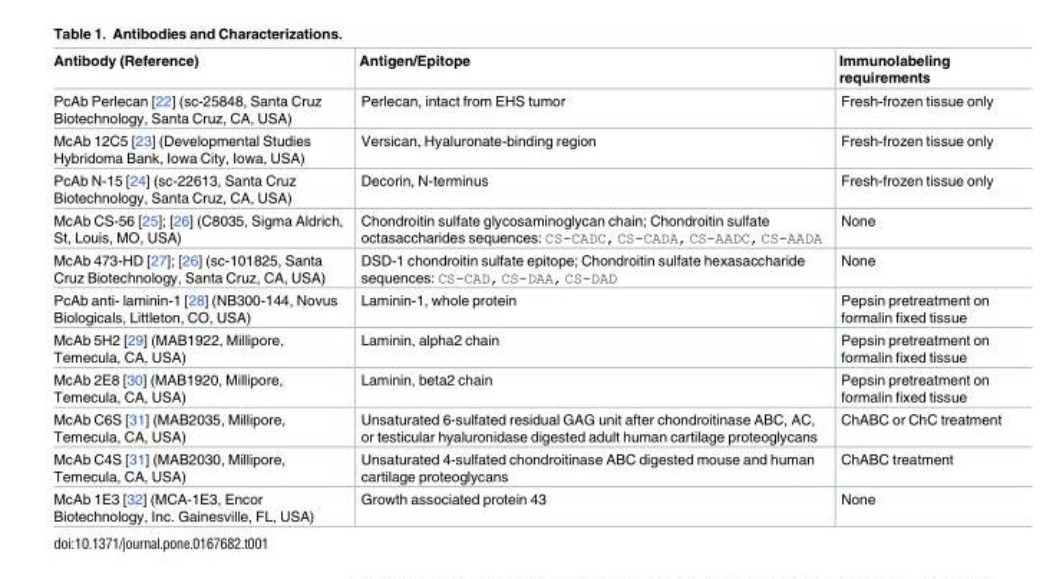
<table><thead><tr><td>Antibody (Reference)</td><td>Antigen/Epitope</td><td>Immunolabeling requirements</td></tr></thead><tbody><tr><td>PcAb Perlecan [22] (sc-25848, Santa Cruz Biotechnology, Santa Cruz, CA, USA)</td><td>Perlecan, intact from EHS tumor</td><td>Fresh-frozen tissue only</td></tr><tr><td>McAb 12C5 [23] (Developmental Studies Hybridoma Bank, Iowa City, Iowa, USA)</td><td>Versican, Hyaluronate-binding region</td><td>Fresh-frozen tissue only</td></tr><tr><td>PcAb N-15 [24] (sc-22613, Santa Cruz Biotechnology, Santa Cruz, CA, USA)</td><td>Decorin, N-terminus</td><td>Fresh-frozen tissue only</td></tr><tr><td>McAb CS-56 [25]; [26] (C8035, Sigma Aldrich, St, Louis, MO, USA)</td><td>Chondroitin sulfate glycosaminoglycan chain; Chondroitin sulfate octasaccharides sequences: CS-CADC, CS-CADA, CS-AADC, CS-AADA</td><td>None</td></tr><tr><td>McAb 473-HD [27]; [26] (sc-101825, Santa Cruz Biotechnology, Santa Cruz, CA, USA)</td><td>DSD-1 chondroitin sulfate epitope; Chondroitin sulfate hexasaccharide sequences: CS-CAD, CS-DAA, CS-DAD</td><td>None</td></tr><tr><td>PcAb anti- laminin-1 [28] (NB300-144, Novus Biologicals, Littleton, CO, USA)</td><td>Laminin-1, whole protein</td><td>Pepsin pretreatment on formalin fixed tissue</td></tr><tr><td>McAb 5H2 [29] (MAB1922, Millipore, Temecula, CA, USA)</td><td>Laminin, alpha2 chain</td><td>Pepsin pretreatment on formalin fixed tissue</td></tr><tr><td>McAb 2E8 [30] (MAB1920, Millipore, Temecula, CA, USA)</td><td>Laminin, beta2 chain</td><td>Pepsin pretreatment on formalin fixed tissue</td></tr><tr><td>McAb C6S [31] (MAB2035, Millipore, Temecula, CA, USA)</td><td>Unsaturated 6-sulfated residual GAG unit after chondroitinase ABC, AC, or testicular hyaluronidase digested adult human cartilage proteoglycans</td><td>ChABC or ChC treatment</td></tr><tr><td>McAb C4S [31] (MAB2030, Millipore, Temecula, CA, USA)</td><td>Unsaturated 4-sulfated chondroitinase ABC digested mouse and human cartilage proteoglycans</td><td>ChABC treatment</td></tr><tr><td>McAb 1E3 [32] (MCA-1E3, Encor Biotechnology, Inc. Gainesville, FL, USA)</td><td>Growth associated protein 43</td><td>None</td></tr></tbody></table>